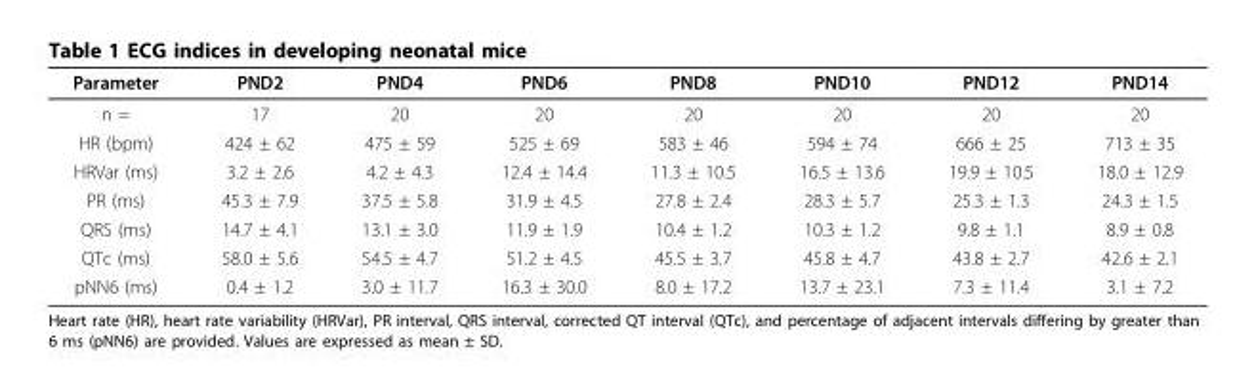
<table><thead><tr><td>Parameter</td><td>PND2</td><td>PND4</td><td>PND6</td><td>PND8</td><td>PND10</td><td>PND12</td><td>PND14</td></tr></thead><tbody><tr><td>n =</td><td>17</td><td>20</td><td>20</td><td>20</td><td>20</td><td>20</td><td>20</td></tr><tr><td>HR (bpm)</td><td>424 ± 62</td><td>475 ± 59</td><td>525 ± 69</td><td>583 ± 46</td><td>594 ± 74</td><td>666 ± 25</td><td>713 ± 35</td></tr><tr><td>HRVar (ms)</td><td>3.2 ± 2.6</td><td>4.2 ± 4.3</td><td>12.4 ± 14.4</td><td>11.3 ± 10.5</td><td>16.5 ± 13.6</td><td>19.9 ± 10.5</td><td>18.0 ± 12.9</td></tr><tr><td>PR (ms)</td><td>45.3 ± 7.9</td><td>37.5 ± 5.8</td><td>31.9 ± 4.5</td><td>27.8 ± 2.4</td><td>28.3 ± 5.7</td><td>25.3 ± 1.3</td><td>24.3 ± 1.5</td></tr><tr><td>QRS (ms)</td><td>14.7 ± 4.1</td><td>13.1 ± 3.0</td><td>11.9 ± 1.9</td><td>10.4 ± 1.2</td><td>10.3 ± 1.2</td><td>9.8 ± 1.1</td><td>8.9 ± 0.8</td></tr><tr><td>QTc (ms)</td><td>58.0 ± 5.6</td><td>54.5 ± 4.7</td><td>51.2 ± 4.5</td><td>45.5 ± 3.7</td><td>45.8 ± 4.7</td><td>43.8 ± 2.7</td><td>42.6 ± 2.1</td></tr><tr><td>pNN6 (ms)</td><td>0.4 ± 1.2</td><td>3.0 ± 11.7</td><td>16.3 ± 30.0</td><td>8.0 ± 17.2</td><td>13.7 ± 23.1</td><td>7.3 ± 11.4</td><td>3.1 ± 7.2</td></tr></tbody></table>